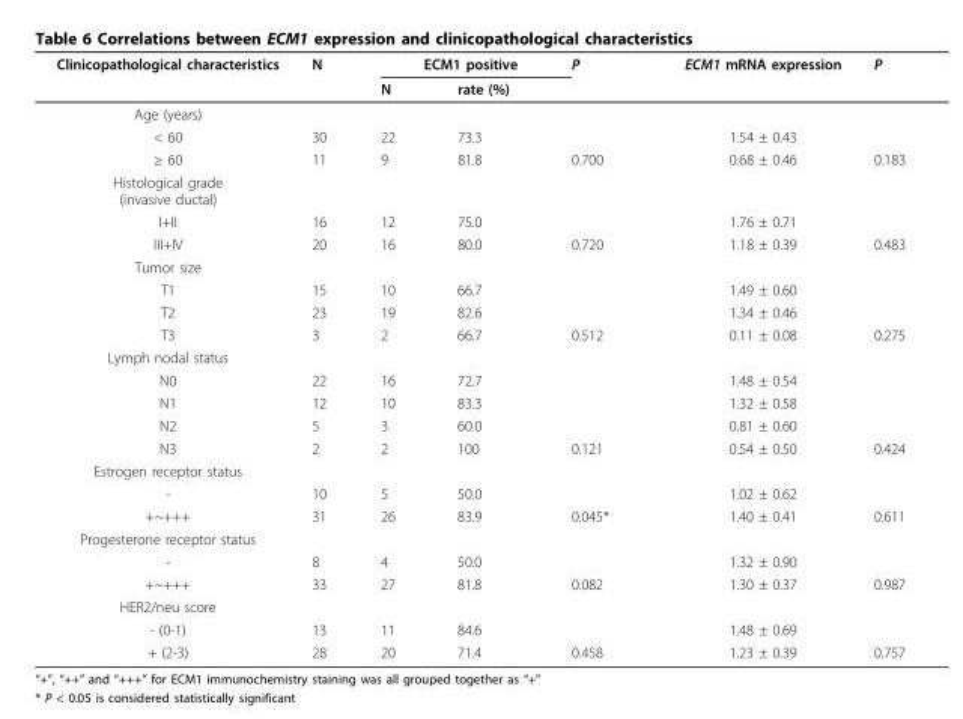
<table><thead><tr><td rowspan="2">Clinicopathological characteristics</td><td rowspan="2">N</td><td colspan="2">ECM1 positive</td><td rowspan="2">P</td><td rowspan="2">ECM1 mRNA expression</td><td rowspan="2">P</td></tr><tr><td>N</td><td>rate (%)</td></tr></thead><tbody><tr><td colspan="7">Age (years)</td></tr><tr><td>&lt; 60</td><td>30</td><td>22</td><td>73.3</td><td></td><td>1.54 ± 0.43</td><td></td></tr><tr><td>≥ 60</td><td>11</td><td>9</td><td>81.8</td><td>0.700</td><td>0.68 ± 0.46</td><td>0.183</td></tr><tr><td colspan="7">Histological grade (invasive ductal)</td></tr><tr><td>I+II</td><td>16</td><td>12</td><td>75.0</td><td></td><td>1.76 ± 0.71</td><td></td></tr><tr><td>III+IV</td><td>20</td><td>16</td><td>80.0</td><td>0.720</td><td>1.18 ± 0.39</td><td>0.483</td></tr><tr><td colspan="7">Tumor size</td></tr><tr><td>T1</td><td>15</td><td>10</td><td>66.7</td><td></td><td>1.49 ± 0.60</td><td></td></tr><tr><td>T2</td><td>23</td><td>19</td><td>82.6</td><td></td><td>1.34 ± 0.46</td><td></td></tr><tr><td>T3</td><td>3</td><td>2</td><td>66.7</td><td>0.512</td><td>0.11 ± 0.08</td><td>0.275</td></tr><tr><td colspan="7">Lymph nodal status</td></tr><tr><td>N0</td><td>22</td><td>16</td><td>72.7</td><td></td><td>1.48 ± 0.54</td><td></td></tr><tr><td>N1</td><td>12</td><td>10</td><td>83.3</td><td></td><td>1.32 ± 0.58</td><td></td></tr><tr><td>N2</td><td>5</td><td>3</td><td>60.0</td><td></td><td>0.81 ± 0.60</td><td></td></tr><tr><td>N3</td><td>2</td><td>2</td><td>100</td><td>0.121</td><td>0.54 ± 0.50</td><td>0.424</td></tr><tr><td colspan="7">Estrogen receptor status</td></tr><tr><td>-</td><td>10</td><td>5</td><td>50.0</td><td></td><td>1.02 ± 0.62</td><td></td></tr><tr><td>+~+++</td><td>31</td><td>26</td><td>83.9</td><td>0.045*</td><td>1.40 ± 0.41</td><td>0.611</td></tr><tr><td colspan="7">Progesterone receptor status</td></tr><tr><td>-</td><td>8</td><td>4</td><td>50.0</td><td></td><td>1.32 ± 0.90</td><td></td></tr><tr><td>+~+++</td><td>33</td><td>27</td><td>81.8</td><td>0.082</td><td>1.30 ± 0.37</td><td>0.987</td></tr><tr><td colspan="7">HER2/neu score</td></tr><tr><td>- (0-1)</td><td>13</td><td>11</td><td>84.6</td><td></td><td>1.48 ± 0.69</td><td></td></tr><tr><td>+ (2-3)</td><td>28</td><td>20</td><td>71.4</td><td>0.458</td><td>1.23 ± 0.39</td><td>0.757</td></tr></tbody></table>